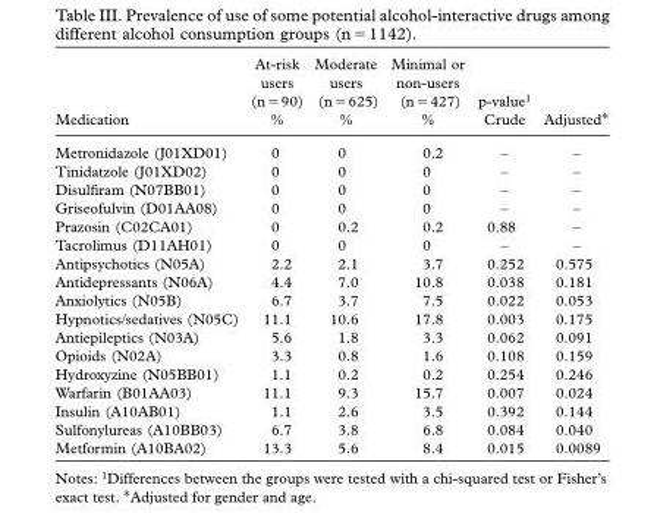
<table><thead><tr><td>Medication</td><td>At-risk users (n = 90) %</td><td>Moderate users (n = 625) %</td><td>Minimal or non-users (n = 427) %</td><td>p-value <sup>1</sup> Crude</td><td>Adjusted</td></tr></thead><tbody><tr><td>Metronidazole (J01XD01) Tinidatzole (J01XD02) Disulfi ram (N07BB01) Griseofulvin (D01AA08) Prazosin (C02CA01) Tacrolimus (D11AH01) Antipsychotics (N05A) Antidepressants (N06A)</td><td>0 0 0 0 0 0 2.2 4.4</td><td>0 0 0 0 0.2 0 2.1 7.0</td><td>0.2 0 0 0 0.2 0 3.7 10.8</td><td>– – – – 0.88 – 0.252 0.038</td><td>– – – – – – 0.575 0.181</td></tr><tr><td>Anxiolytics (N05B)</td><td>6.7</td><td>3.7</td><td>7.5</td><td>0.022</td><td>0.053</td></tr><tr><td>Hypnotics/sedatives (N05C)</td><td>11.1</td><td>10.6</td><td>17.8</td><td>0.003</td><td>0.175</td></tr><tr><td>Antiepileptics (N03A)</td><td>5.6</td><td>1.8</td><td>3.3</td><td>0.062</td><td>0.091</td></tr><tr><td>Opioids (N02A) Hydroxyzine (N05BB01)</td><td>3.3 1.1</td><td>0.8 0.2</td><td>1.6 0.2</td><td>0.108 0.254</td><td>0.159 0.246</td></tr><tr><td>Warfarin (B01AA03)</td><td>11.1</td><td>9.3</td><td>15.7</td><td>0.007</td><td>0.024</td></tr><tr><td>Insulin (A10AB01)</td><td>1.1</td><td>2.6</td><td>3.5</td><td>0.392</td><td>0.144</td></tr><tr><td>Sulfonylureas (A10BB03)</td><td>6.7</td><td>3.8</td><td>6.8</td><td>0.084</td><td>0.040</td></tr><tr><td>Metformin (A10BA02)</td><td>13.3</td><td>5.6</td><td>8.4</td><td>0.015</td><td>0.0089</td></tr></tbody></table>